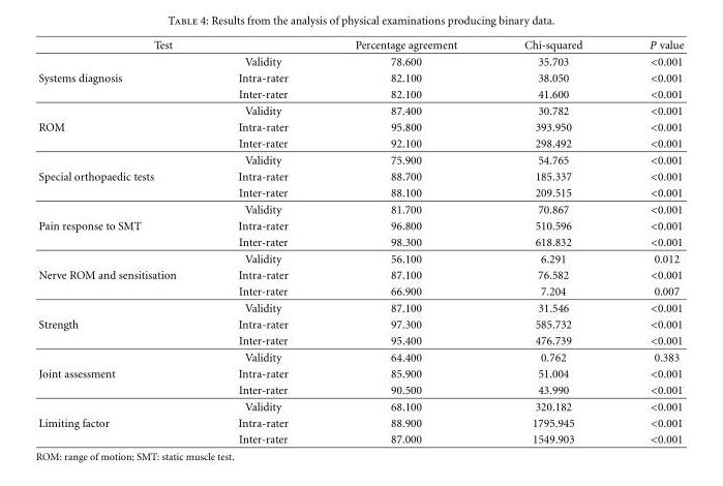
<table><thead><tr><td colspan="2">Test</td><td rowspan="2">Percentage agreement 78.600</td><td rowspan="2">Chi-squared 35.703</td><td rowspan="2">P value &lt;0.001</td></tr><tr><td></td><td>Validity</td></tr></thead><tbody><tr><td rowspan="3">Systems diagnosis</td><td>Intra-rater</td><td>82.100</td><td>38.050</td><td>&lt;0.001</td></tr><tr><td>Inter-rater</td><td>82.100</td><td>41.600</td><td>&lt;0.001</td></tr><tr><td>Validity</td><td>87.400</td><td>30.782</td><td>&lt;0.001</td></tr><tr><td rowspan="3">ROM</td><td>Intra-rater</td><td>95.800</td><td>393.950</td><td>&lt;0.001</td></tr><tr><td>Inter-rater</td><td>92.100</td><td>298.492</td><td>&lt;0.001</td></tr><tr><td>Validity</td><td>75.900</td><td>54.765</td><td>&lt;0.001</td></tr><tr><td rowspan="3">Special orthopaedic tests</td><td>Intra-rater</td><td>88.700</td><td>185.337</td><td>&lt;0.001</td></tr><tr><td>Inter-rater</td><td>88.100</td><td>209.515</td><td>&lt;0.001</td></tr><tr><td>Validity</td><td>81.700</td><td>70.867</td><td>&lt;0.001</td></tr><tr><td rowspan="3">Pain response to SMT</td><td>Intra-rater</td><td>96.800</td><td>510.596</td><td>&lt;0.001</td></tr><tr><td>Inter-rater</td><td>98.300</td><td>618.832</td><td>&lt;0.001</td></tr><tr><td>Validity</td><td>56.100</td><td>6.291</td><td>0.012</td></tr><tr><td rowspan="3">Nerve ROM and sensitisation</td><td>Intra-rater</td><td>87.100</td><td>76.582</td><td>&lt;0.001</td></tr><tr><td>Inter-rater</td><td>66.900</td><td>7.204</td><td>0.007</td></tr><tr><td>Validity</td><td>87.100</td><td>31.546</td><td>&lt;0.001</td></tr><tr><td rowspan="3">Strength</td><td>Intra-rater</td><td>97.300</td><td>585.732</td><td>&lt;0.001</td></tr><tr><td>Inter-rater</td><td>95.400</td><td>476.739</td><td>&lt;0.001</td></tr><tr><td>Validity</td><td>64.400</td><td>0.762</td><td>0.383</td></tr><tr><td rowspan="3">Joint assessment</td><td>Intra-rater</td><td>85.900</td><td>51.004</td><td>&lt;0.001</td></tr><tr><td>Inter-rater</td><td>90.500</td><td>43.990</td><td>&lt;0.001</td></tr><tr><td>Validity</td><td>68.100</td><td>320.182</td><td>&lt;0.001</td></tr><tr><td rowspan="2">Limiting factor</td><td>Intra-rater</td><td>88.900</td><td>1795.945</td><td>&lt;0.001</td></tr><tr><td>Inter-rater</td><td>87.000</td><td>1549.903</td><td>&lt;0.001</td></tr></tbody></table>